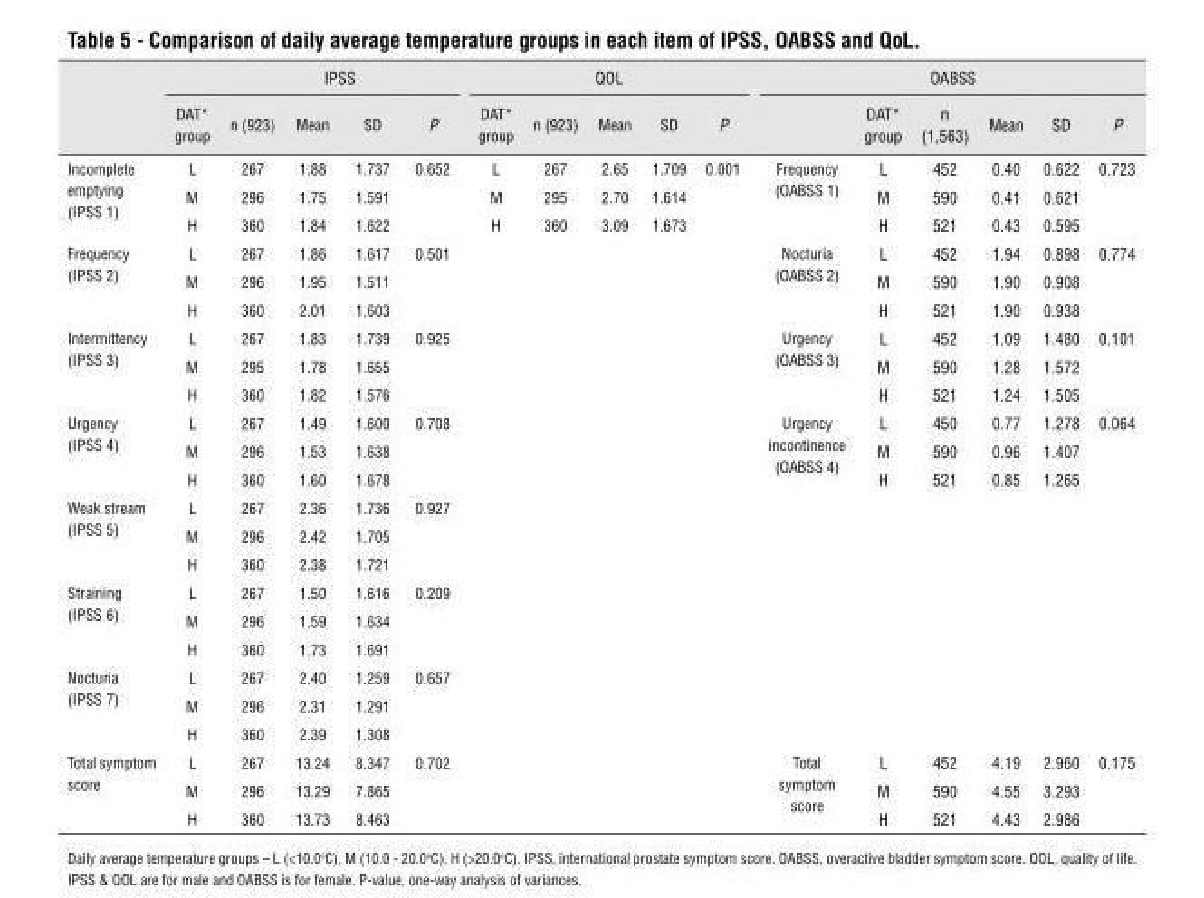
<table><thead><tr><td rowspan="2"></td><td rowspan="2">DAT* group</td><td colspan="4">IPSS</td><td colspan="5">QOL</td><td colspan="6">OABSS</td></tr><tr><td>n (923)</td><td>Mean</td><td>SD</td><td>P</td><td>DAT* group</td><td>n (923)</td><td>Mean</td><td>SD</td><td>P</td><td></td><td>DAT* group</td><td>n (1,563)</td><td>Mean</td><td>SD</td><td>P</td></tr></thead><tbody><tr><td rowspan="3">Incomplete emptying (IPSS 1)</td><td>L</td><td>267</td><td>1.88</td><td>1.737</td><td>0.652</td><td>L</td><td>267</td><td>2.65</td><td>1.709</td><td>0.001</td><td rowspan="3">Frequency (OABSS 1)</td><td>L</td><td>452</td><td>0.40</td><td>0.622</td><td>0.723</td></tr><tr><td>M</td><td>296</td><td>1.75</td><td>1.591</td><td></td><td>M</td><td>295</td><td>2.70</td><td>1.614</td><td></td><td>M</td><td>590</td><td>0.41</td><td>0.621</td><td></td></tr><tr><td>H</td><td>360</td><td>1.84</td><td>1.622</td><td></td><td>H</td><td>360</td><td>3.09</td><td>1.673</td><td></td><td>H</td><td>521</td><td>0.43</td><td>0.595</td><td></td></tr><tr><td rowspan="3">Frequency (IPSS 2)</td><td>L</td><td>267</td><td>1.86</td><td>1.617</td><td>0.501</td><td></td><td></td><td></td><td></td><td></td><td rowspan="3">Nocturia (OABSS 2)</td><td>L</td><td>452</td><td>1.94</td><td>0.898</td><td>0.774</td></tr><tr><td>M</td><td>296</td><td>1.95</td><td>1.511</td><td></td><td></td><td></td><td></td><td></td><td></td><td>M</td><td>590</td><td>1.90</td><td>0.908</td><td></td></tr><tr><td>H</td><td>360</td><td>2.01</td><td>1.603</td><td></td><td></td><td></td><td></td><td></td><td></td><td>H</td><td>521</td><td>1.90</td><td>0.938</td><td></td></tr><tr><td rowspan="3">Intermittency (IPSS 3)</td><td>L</td><td>267</td><td>1.83</td><td>1.739</td><td>0.925</td><td></td><td></td><td></td><td></td><td></td><td rowspan="3">Urgency (OABSS 3)</td><td>L</td><td>452</td><td>1.09</td><td>1.480</td><td>0.101</td></tr><tr><td>M</td><td>295</td><td>1.78</td><td>1.655</td><td></td><td></td><td></td><td></td><td></td><td></td><td>M</td><td>590</td><td>1.28</td><td>1.572</td><td></td></tr><tr><td>H</td><td>360</td><td>1.82</td><td>1.576</td><td></td><td></td><td></td><td></td><td></td><td></td><td>H</td><td>521</td><td>1.24</td><td>1.505</td><td></td></tr><tr><td rowspan="3">Urgency (IPSS 4)</td><td>L</td><td>267</td><td>1.49</td><td>1.600</td><td>0.708</td><td></td><td></td><td></td><td></td><td></td><td rowspan="3">Urgency incontinence (OABSS 4)</td><td>L</td><td>450</td><td>0.77</td><td>1.278</td><td>0.064</td></tr><tr><td>M</td><td>296</td><td>1.53</td><td>1.638</td><td></td><td></td><td></td><td></td><td></td><td></td><td>M</td><td>590</td><td>0.96</td><td>1.407</td><td></td></tr><tr><td>H</td><td>360</td><td>1.60</td><td>1.678</td><td></td><td></td><td></td><td></td><td></td><td></td><td>H</td><td>521</td><td>0.85</td><td>1.265</td><td></td></tr><tr><td rowspan="3">Weak stream (IPSS 5)</td><td>L</td><td>267</td><td>2.36</td><td>1.736</td><td>0.927</td><td></td><td></td><td></td><td></td><td></td><td rowspan="3"></td><td></td><td></td><td></td><td></td><td></td></tr><tr><td>M</td><td>296</td><td>2.42</td><td>1.705</td><td></td><td></td><td></td><td></td><td></td><td></td><td></td><td></td><td></td><td></td><td></td></tr><tr><td>H</td><td>360</td><td>2.38</td><td>1.721</td><td></td><td></td><td></td><td></td><td></td><td></td><td></td><td></td><td></td><td></td><td></td></tr><tr><td rowspan="3">Straining (IPSS 6)</td><td>L</td><td>267</td><td>1.50</td><td>1.616</td><td>0.209</td><td></td><td></td><td></td><td></td><td></td><td rowspan="3"></td><td></td><td></td><td></td><td></td><td></td></tr><tr><td>M</td><td>296</td><td>1.59</td><td>1.634</td><td></td><td></td><td></td><td></td><td></td><td></td><td></td><td></td><td></td><td></td><td></td></tr><tr><td>H</td><td>360</td><td>1.73</td><td>1.691</td><td></td><td></td><td></td><td></td><td></td><td></td><td></td><td></td><td></td><td></td><td></td></tr><tr><td rowspan="3">Nocturia (IPSS 7)</td><td>L</td><td>267</td><td>2.40</td><td>1.259</td><td>0.657</td><td></td><td></td><td></td><td></td><td></td><td rowspan="3"></td><td></td><td></td><td></td><td></td><td></td></tr><tr><td>M</td><td>296</td><td>2.31</td><td>1.291</td><td></td><td></td><td></td><td></td><td></td><td></td><td></td><td></td><td></td><td></td><td></td></tr><tr><td>H</td><td>360</td><td>2.39</td><td>1.308</td><td></td><td></td><td></td><td></td><td></td><td></td><td></td><td></td><td></td><td></td><td></td></tr><tr><td rowspan="3">Total symptom score</td><td>L</td><td>267</td><td>13.24</td><td>8.347</td><td>0.702</td><td></td><td></td><td></td><td></td><td></td><td rowspan="3">Total symptom score</td><td>L</td><td>452</td><td>4.19</td><td>2.960</td><td>0.175</td></tr><tr><td>M</td><td>296</td><td>13.29</td><td>7.865</td><td></td><td></td><td></td><td></td><td></td><td></td><td>M</td><td>590</td><td>4.55</td><td>3.293</td><td></td></tr><tr><td>H</td><td>360</td><td>13.73</td><td>8.463</td><td></td><td></td><td></td><td></td><td></td><td></td><td>H</td><td>521</td><td>4.43</td><td>2.986</td><td></td></tr></tbody></table>